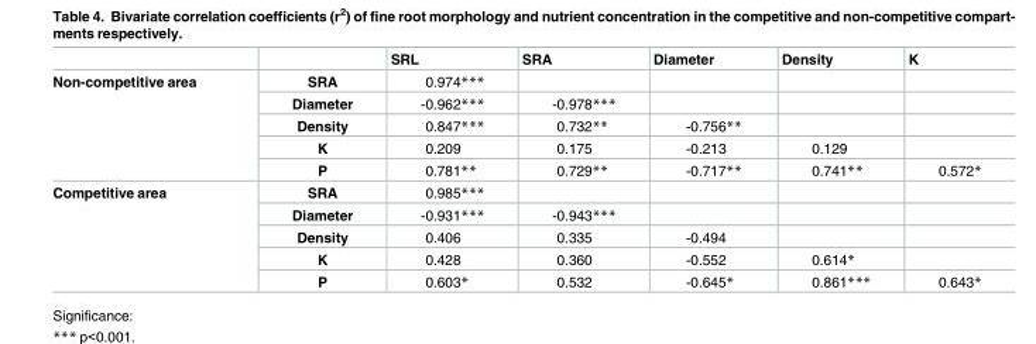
<table><thead><tr><td></td><td></td><td>SRL</td><td>SRA</td><td>Diameter</td><td>Density</td><td>K</td></tr></thead><tbody><tr><td rowspan="5">Non-competitive area</td><td>SRA</td><td>0.974***</td><td></td><td></td><td></td><td></td></tr><tr><td>Diameter</td><td>-0.962***</td><td>-0.978***</td><td></td><td></td><td></td></tr><tr><td>Density</td><td>0.847***</td><td>0.732**</td><td>-0.756**</td><td></td><td></td></tr><tr><td>K</td><td>0.209</td><td>0.175</td><td>-0.213</td><td>0.129</td><td></td></tr><tr><td>P</td><td>0.781**</td><td>0.729**</td><td>-0.717**</td><td>0.741**</td><td>0.572*</td></tr><tr><td rowspan="5">Competitive area</td><td>SRA</td><td>0.985***</td><td></td><td></td><td></td><td></td></tr><tr><td>Diameter</td><td>-0.931***</td><td>-0.943***</td><td></td><td></td><td></td></tr><tr><td>Density</td><td>0.406</td><td>0.335</td><td>-0.494</td><td></td><td></td></tr><tr><td>K</td><td>0.428</td><td>0.360</td><td>-0.552</td><td>0.614*</td><td></td></tr><tr><td>P</td><td>0.603*</td><td>0.532</td><td>-0.645*</td><td>0.861***</td><td>0.643*</td></tr></tbody></table>